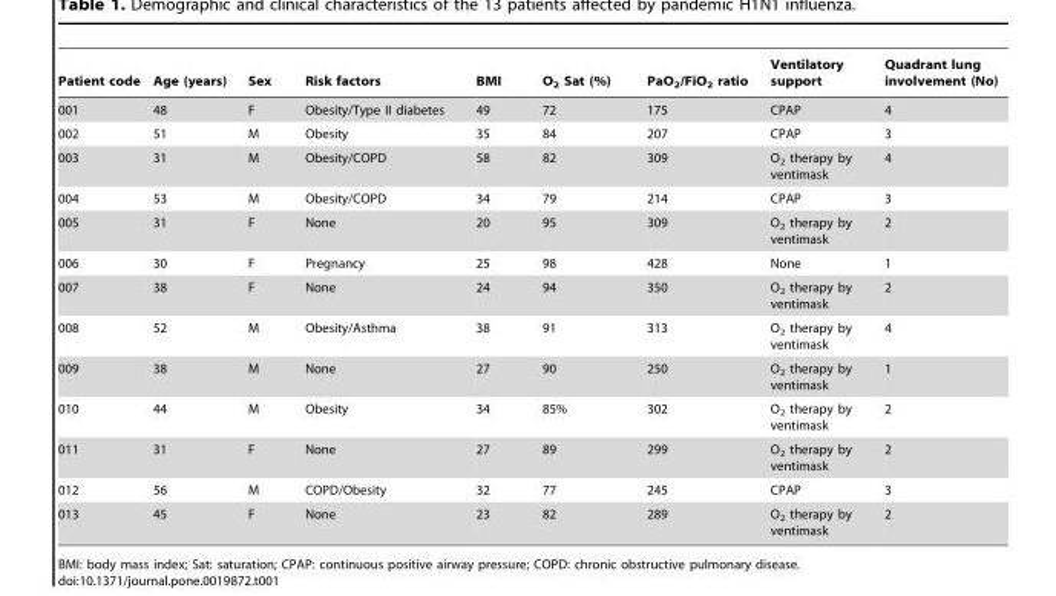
<table><thead><tr><td>Patient code</td><td>Age (years)</td><td>Sex</td><td>Risk factors</td><td>BMI</td><td>O<sub>2</sub> Sat (%)</td><td>PaO<sub>2</sub>/FiO<sub>2</sub> ratio</td><td>Ventilatory support</td><td>Quadrant lung involvement (No)</td></tr></thead><tbody><tr><td>001</td><td>48</td><td>F</td><td>Obesity/Type II diabetes</td><td>49</td><td>72</td><td>175</td><td>CPAP</td><td>4</td></tr><tr><td>002</td><td>51</td><td>M</td><td>Obesity</td><td>35</td><td>84</td><td>207</td><td>CPAP</td><td>3</td></tr><tr><td>003</td><td>31</td><td>M</td><td>Obesity/COPD</td><td>58</td><td>82</td><td>309</td><td>O<sub>2</sub> therapy by ventimask</td><td>4</td></tr><tr><td>004</td><td>53</td><td>M</td><td>Obesity/COPD</td><td>34</td><td>79</td><td>214</td><td>CPAP</td><td>3</td></tr><tr><td>005</td><td>31</td><td>F</td><td>None</td><td>20</td><td>95</td><td>309</td><td>O<sub>2</sub> therapy by ventimask</td><td>2</td></tr><tr><td>006</td><td>30</td><td>F</td><td>Pregnancy</td><td>25</td><td>98</td><td>428</td><td>None</td><td>1</td></tr><tr><td>007</td><td>38</td><td>F</td><td>None</td><td>24</td><td>94</td><td>350</td><td>O<sub>2</sub> therapy by ventimask</td><td>2</td></tr><tr><td>008</td><td>52</td><td>M</td><td>Obesity/Asthma</td><td>38</td><td>91</td><td>313</td><td>O<sub>2</sub> therapy by ventimask</td><td>4</td></tr><tr><td>009</td><td>38</td><td>M</td><td>None</td><td>27</td><td>90</td><td>250</td><td>O<sub>2</sub> therapy by ventimask</td><td>1</td></tr><tr><td>010</td><td>44</td><td>M</td><td>Obesity</td><td>34</td><td>85%</td><td>302</td><td>O<sub>2</sub> therapy by ventimask</td><td>2</td></tr><tr><td>011</td><td>31</td><td>F</td><td>None</td><td>27</td><td>89</td><td>299</td><td>O<sub>2</sub> therapy by ventimask</td><td>2</td></tr><tr><td>012</td><td>56</td><td>M</td><td>COPD/Obesity</td><td>32</td><td>77</td><td>245</td><td>CPAP</td><td>3</td></tr><tr><td>013</td><td>45</td><td>F</td><td>None</td><td>23</td><td>82</td><td>289</td><td>O<sub>2</sub> therapy by ventimask</td><td>2</td></tr></tbody></table>